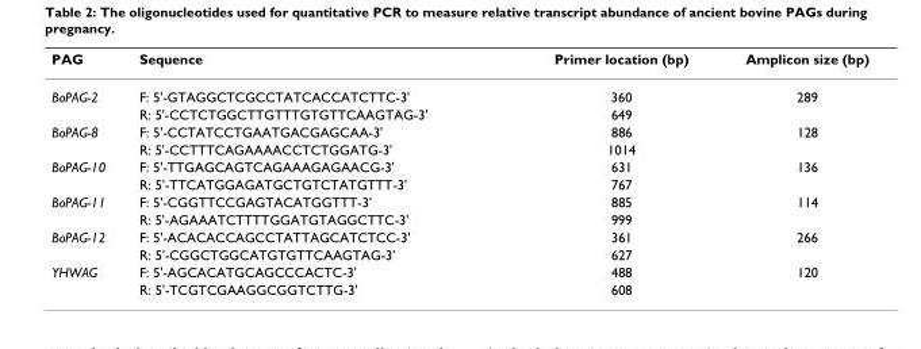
<table><thead><tr><td>PAG</td><td>Sequence</td><td>Primer location (bp)</td><td>Amplicon size (bp)</td></tr></thead><tbody><tr><td rowspan="2">BoPAG-2</td><td>F: 5&#x27;-GTAGGCTCGCCTATCACCATCTTC-3&#x27;</td><td>360</td><td>289</td></tr><tr><td>R: 5&#x27;-CCTCTGGCTTGTTTGTGTTCAAGTAG-3&#x27;</td><td>649</td><td></td></tr><tr><td rowspan="2">BoPAG-8</td><td>F: 5&#x27;-CCTATCCTGAATGACGAGCAA-3&#x27;</td><td>886</td><td>128</td></tr><tr><td>R: 5&#x27;-CCTTTCAGAAAACCTCTGGATG-3&#x27;</td><td>1014</td><td></td></tr><tr><td rowspan="2">BoPAG-10</td><td>F: 5&#x27;-TTGAGCAGTCAGAAAGAGAACG-3&#x27;</td><td>631</td><td>136</td></tr><tr><td>R: 5&#x27;-TTCATGGAGATGCTGTCTATGTTT-3&#x27;</td><td>767</td><td></td></tr><tr><td rowspan="2">BoPAG-11</td><td>F: 5&#x27;-CGGTTCCGAGTACATGGTTT-3&#x27;</td><td>885</td><td>114</td></tr><tr><td>R: 5&#x27;-AGAAATCTTTTGGATGTAGGCTTC-3&#x27;</td><td>999</td><td></td></tr><tr><td rowspan="2">BoPAG-12</td><td>F: 5&#x27;-ACACACCAGCCTATTAGCATCTCC-3&#x27;</td><td>361</td><td>266</td></tr><tr><td>R: 5&#x27;-CGGCTGGCATGTGTTCAAGTAG-3&#x27;</td><td>627</td><td></td></tr><tr><td rowspan="2">YHWAG</td><td>F: 5&#x27;-AGCACATGCAGCCCACTC-3&#x27;</td><td>488</td><td>120</td></tr><tr><td>R: 5&#x27;-TCGTCGAAGGCGGTCTTG-3&#x27;</td><td>608</td><td></td></tr></tbody></table>